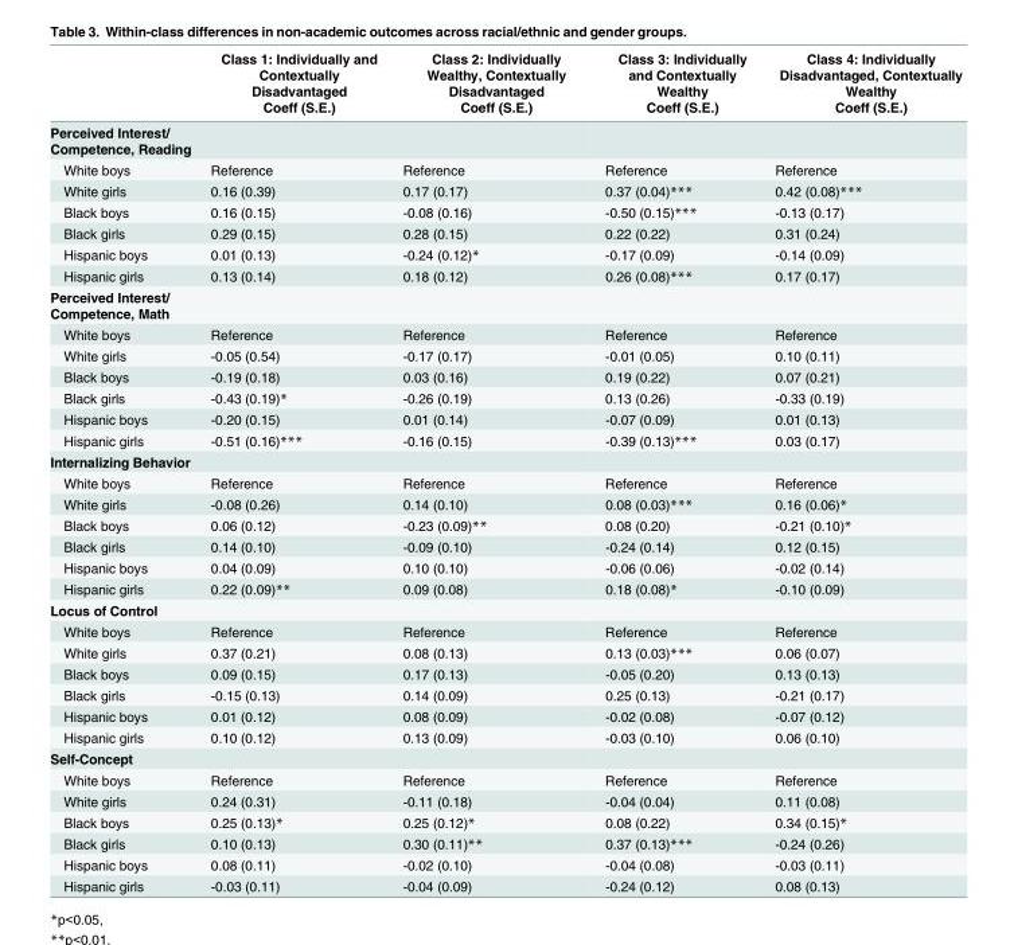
<table><thead><tr><td rowspan="2"></td><td rowspan="2">Class 1: Individually and Contextually Disadvantaged Coeff (S.E.)</td><td rowspan="2">Class 2: Individually Wealthy, Contextually Disadvantaged Coeff (S.E.)</td><td rowspan="2">Class 3: Individually and Contextually Wealthy Coeff (S.E.)</td><td rowspan="2">Class 4: Individually Disadvantaged, Contextually Wealthy Coeff (S.E.)</td></tr><tr></tr></thead><tbody><tr><td colspan="5">Perceived Interest/ Competence, Reading</td></tr><tr><td>White boys</td><td>Reference</td><td>Reference</td><td>Reference</td><td>Reference</td></tr><tr><td>White girls</td><td>0.16 (0.39)</td><td>0.17 (0.17)</td><td>0.37 (0.04)***</td><td>0.42 (0.08)***</td></tr><tr><td>Black boys</td><td>0.16 (0.15)</td><td>-0.08 (0.16)</td><td>-0.50 (0.15)***</td><td>-0.13 (0.17)</td></tr><tr><td>Black girls</td><td>0.29 (0.15)</td><td>0.28 (0.15)</td><td>0.22 (0.22)</td><td>0.31 (0.24)</td></tr><tr><td>Hispanic boys</td><td>0.01 (0.13)</td><td>-0.24 (0.12)*</td><td>-0.17 (0.09)</td><td>-0.14 (0.09)</td></tr><tr><td>Hispanic girls</td><td>0.13 (0.14)</td><td>0.18 (0.12)</td><td>0.26 (0.08)***</td><td>0.17 (0.17)</td></tr><tr><td colspan="5">Perceived Interest/ Competence, Math</td></tr><tr><td>White boys</td><td>Reference</td><td>Reference</td><td>Reference</td><td>Reference</td></tr><tr><td>White girls</td><td>-0.05 (0.54)</td><td>-0.17 (0.17)</td><td>-0.01 (0.05)</td><td>0.10 (0.11)</td></tr><tr><td>Black boys</td><td>-0.19 (0.18)</td><td>0.03 (0.16)</td><td>0.19 (0.22)</td><td>0.07 (0.21)</td></tr><tr><td>Black girls</td><td>-0.43 (0.19)*</td><td>-0.26 (0.19)</td><td>0.13 (0.26)</td><td>-0.33 (0.19)</td></tr><tr><td>Hispanic boys</td><td>-0.20 (0.15)</td><td>0.01 (0.14)</td><td>-0.07 (0.09)</td><td>0.01 (0.13)</td></tr><tr><td>Hispanic girls</td><td>-0.51 (0.16)***</td><td>-0.16 (0.15)</td><td>-0.39 (0.13)***</td><td>0.03 (0.17)</td></tr><tr><td colspan="5">Internalizing Behavior</td></tr><tr><td>White boys</td><td>Reference</td><td>Reference</td><td>Reference</td><td>Reference</td></tr><tr><td>White girls</td><td>-0.08 (0.26)</td><td>0.14 (0.10)</td><td>0.08 (0.03)***</td><td>0.16 (0.06)*</td></tr><tr><td>Black boys</td><td>0.06 (0.12)</td><td>-0.23 (0.09)**</td><td>0.08 (0.20)</td><td>-0.21 (0.10)*</td></tr><tr><td>Black girls</td><td>0.14 (0.10)</td><td>-0.09 (0.10)</td><td>-0.24 (0.14)</td><td>0.12 (0.15)</td></tr><tr><td>Hispanic boys</td><td>0.04 (0.09)</td><td>0.10 (0.10)</td><td>-0.06 (0.06)</td><td>-0.02 (0.14)</td></tr><tr><td>Hispanic girls</td><td>0.22 (0.09)**</td><td>0.09 (0.08)</td><td>0.18 (0.08)*</td><td>-0.10 (0.09)</td></tr><tr><td colspan="5">Locus of Control</td></tr><tr><td>White boys</td><td>Reference</td><td>Reference</td><td>Reference</td><td>Reference</td></tr><tr><td>White girls</td><td>0.37 (0.21)</td><td>0.08 (0.13)</td><td>0.13 (0.03)***</td><td>0.06 (0.07)</td></tr><tr><td>Black boys</td><td>0.09 (0.15)</td><td>0.17 (0.13)</td><td>-0.05 (0.20)</td><td>0.13 (0.13)</td></tr><tr><td>Black girls</td><td>-0.15 (0.13)</td><td>0.14 (0.09)</td><td>0.25 (0.13)</td><td>-0.21 (0.17)</td></tr><tr><td>Hispanic boys</td><td>0.01 (0.12)</td><td>0.08 (0.09)</td><td>-0.02 (0.08)</td><td>-0.07 (0.12)</td></tr><tr><td>Hispanic girls</td><td>0.10 (0.12)</td><td>0.13 (0.09)</td><td>-0.03 (0.10)</td><td>0.06 (0.10)</td></tr><tr><td colspan="5">Self-Concept</td></tr><tr><td>White boys</td><td>Reference</td><td>Reference</td><td>Reference</td><td>Reference</td></tr><tr><td>White girls</td><td>0.24 (0.31)</td><td>-0.11 (0.18)</td><td>-0.04 (0.04)</td><td>0.11 (0.08)</td></tr><tr><td>Black boys</td><td>0.25 (0.13)*</td><td>0.25 (0.12)*</td><td>0.08 (0.22)</td><td>0.34 (0.15)*</td></tr><tr><td>Black girls</td><td>0.10 (0.13)</td><td>0.30 (0.11)**</td><td>0.37 (0.13)***</td><td>-0.24 (0.26)</td></tr><tr><td>Hispanic boys</td><td>0.08 (0.11)</td><td>-0.02 (0.10)</td><td>-0.04 (0.08)</td><td>-0.03 (0.11)</td></tr><tr><td>Hispanic girls</td><td>-0.03 (0.11)</td><td>-0.04 (0.09)</td><td>-0.24 (0.12)</td><td>0.08 (0.13)</td></tr></tbody></table>